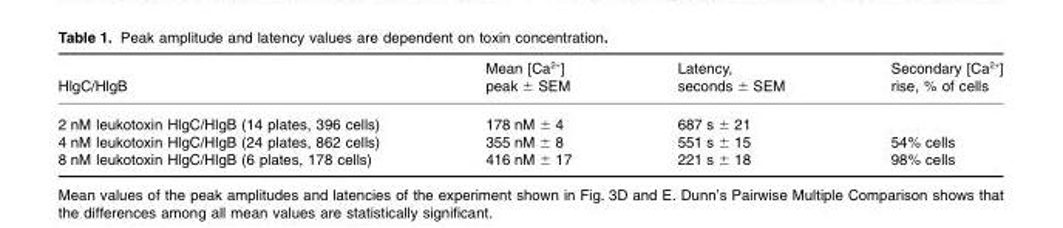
<table><thead><tr><td>HlgC/HlgB</td><td>Mean [Ca<sup>2+</sup>] peak ± SEM</td><td>Latency, seconds ± SEM</td><td>Secondary [Ca<sup>2+</sup>] rise, % of cells</td></tr></thead><tbody><tr><td>2 nM leukotoxin HlgC/HlgB (14 plates, 396 cells)</td><td>178 nM ± 4</td><td>687 s ± 21</td><td></td></tr><tr><td>4 nM leukotoxin HlgC/HlgB (24 plates, 862 cells)</td><td>355 nM ± 8</td><td>551 s ± 15</td><td>54% cells</td></tr><tr><td>8 nM leukotoxin HlgC/HlgB (6 plates, 178 cells)</td><td>416 nM ± 17</td><td>221 s ± 18</td><td>98% cells</td></tr></tbody></table>